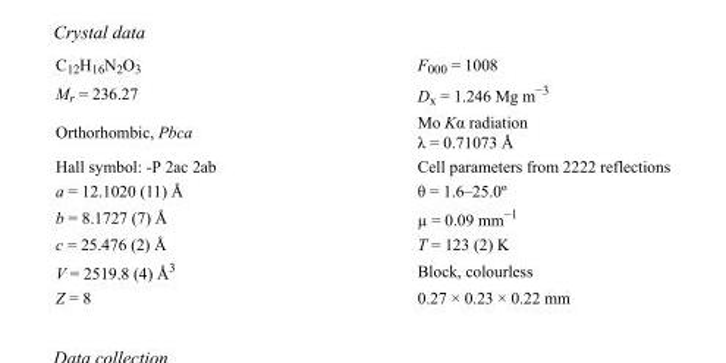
<table><tbody><tr><td>C<sub>12</sub>H<sub>16</sub>N<sub>2</sub>O<sub>3</sub></td><td>F000 = 1008</td></tr><tr><td>M<sub>r</sub> = 236.27</td><td>D<sub>x</sub> = 1.246 Mg m<sup>−3</sup></td></tr><tr><td>Orthorhombic, Pbca</td><td>Mo Kα radiation λ = 0.71073 Å</td></tr><tr><td>Hall symbol: -P 2ac 2ab</td><td>Cell parameters from 2222 reflections</td></tr><tr><td>a = 12.1020 (11) Å</td><td>θ = 1.6–25.0º</td></tr><tr><td>b = 8.1727 (7) Å</td><td>µ = 0.09 mm<sup>−1</sup></td></tr><tr><td>c = 25.476 (2) Å</td><td>T = 123 (2) K</td></tr><tr><td>V = 2519.8 (4) Å<sup>3</sup></td><td>Block, colourless</td></tr><tr><td>Z = 8</td><td>0.27 × 0.23 × 0.22 mm</td></tr></tbody></table>